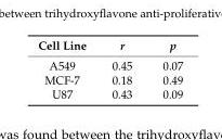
<table><thead><tr><td>Cell Line</td><td>r</td><td>p</td></tr></thead><tbody><tr><td>A549</td><td>0.45</td><td>0.07</td></tr><tr><td>MCF-7</td><td>0.18</td><td>0.49</td></tr><tr><td>U87</td><td>0.43</td><td>0.09</td></tr></tbody></table>